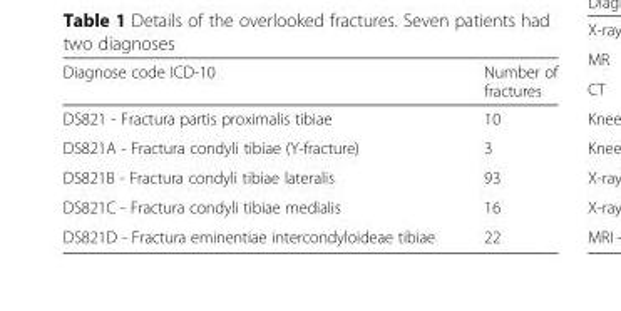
<table><thead><tr><td>Diagnose code ICD-10</td><td>Number of fractures</td></tr></thead><tbody><tr><td>DS821 - Fractura partis proximalis tibiae</td><td>10</td></tr><tr><td>DS821A - Fractura condyli tibiae (Y-fracture)</td><td>3</td></tr><tr><td>DS821B - Fractura condyli tibiae lateralis</td><td>93</td></tr><tr><td>DS821C - Fractura condyli tibiae medialis</td><td>16</td></tr><tr><td>DS821D - Fractura eminentiae intercondyloideae tibiae</td><td>22</td></tr></tbody></table>